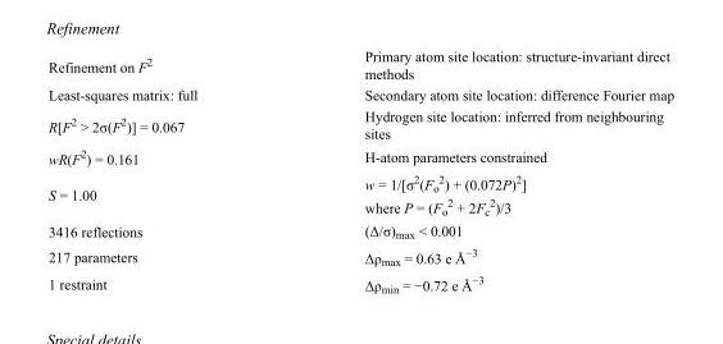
<table><tbody><tr><td>Refinement on F<sup>2</sup></td><td>Primary atom site location: structure-invariant direct methods</td></tr><tr><td>Least-squares matrix: full</td><td>Secondary atom site location: difference Fourier map</td></tr><tr><td>R[F<sup>2</sup> &gt; 2σ(F<sup>2</sup>)] = 0.067</td><td>Hydrogen site location: inferred from neighbouring sites</td></tr><tr><td>wR(F<sup>2</sup>) = 0.161</td><td>H-atom parameters constrained</td></tr><tr><td>S = 1.00</td><td>w = 1/[σ<sup>2</sup>(F<sub>o</sub> <sup>2</sup>) + (0.072P)<sup>2</sup>] where P = (F<sub>o</sub> <sup>2</sup> + 2F<sub>c</sub> <sup>2</sup>)/3</td></tr><tr><td>3416 reflections</td><td>(Δ/σ)<sub>max</sub> &lt; 0.001</td></tr><tr><td>217 parameters</td><td>Δρ<sub>max</sub> = 0.63 e Å<sup>−3</sup></td></tr><tr><td>1 restraint</td><td>Δρ<sub>min</sub> = −0.72 e Å<sup>−3</sup></td></tr></tbody></table>